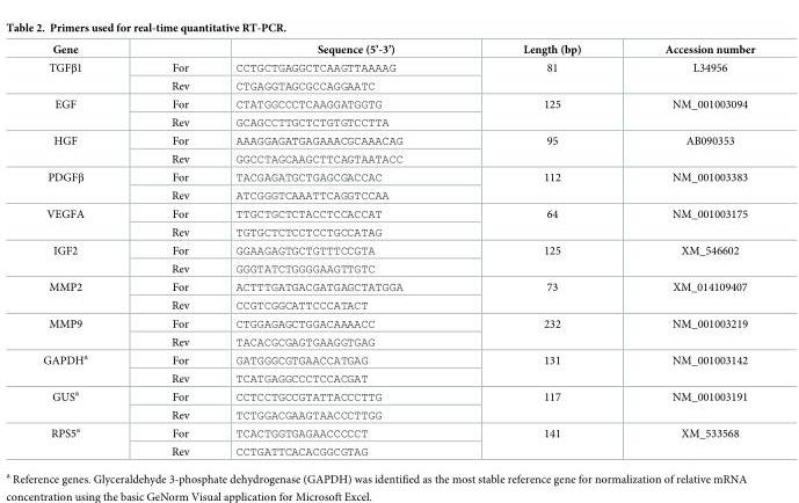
<table><thead><tr><td>Gene</td><td></td><td>Sequence (5’-3’)</td><td>Length (bp)</td><td>Accession number</td></tr></thead><tbody><tr><td rowspan="2">TGFβ1</td><td>For</td><td>CCTGCTGAGGCTCAAGTTAAAAG</td><td rowspan="2">81</td><td rowspan="2">L34956</td></tr><tr><td>Rev</td><td>CTGAGGTAGCGCCAGGAATC</td></tr><tr><td rowspan="2">EGF</td><td>For</td><td>CTATGGCCCTCAAGGATGGTG</td><td rowspan="2">125</td><td rowspan="2">NM_001003094</td></tr><tr><td>Rev</td><td>GCAGCCTTGCTCTGTGTCCTTA</td></tr><tr><td rowspan="2">HGF</td><td>For</td><td>AAAGGAGATGAGAAACGCAAACAG</td><td rowspan="2">95</td><td rowspan="2">AB090353</td></tr><tr><td>Rev</td><td>GGCCTAGCAAGCTTCAGTAATACC</td></tr><tr><td rowspan="2">PDGFβ</td><td>For</td><td>TACGAGATGCTGAGCGACCAC</td><td rowspan="2">112</td><td rowspan="2">NM_001003383</td></tr><tr><td>Rev</td><td>ATCGGGTCAAATTCAGGTCCAA</td></tr><tr><td rowspan="2">VEGFA</td><td>For</td><td>TTGCTGCTCTACCTCCACCAT</td><td rowspan="2">64</td><td rowspan="2">NM_001003175</td></tr><tr><td>Rev</td><td>TGTGCTCTCCTCCTGCCATAG</td></tr><tr><td rowspan="2">IGF2</td><td>For</td><td>GGAAGAGTGCTGTTTCCGTA</td><td rowspan="2">125</td><td rowspan="2">XM_546602</td></tr><tr><td>Rev</td><td>GGGTATCTGGGGAAGTTGTC</td></tr><tr><td rowspan="2">MMP2</td><td>For</td><td>ACTTTGATGACGATGAGCTATGGA</td><td rowspan="2">73</td><td rowspan="2">XM_014109407</td></tr><tr><td>Rev</td><td>CCGTCGGCATTCCCATACT</td></tr><tr><td rowspan="2">MMP9</td><td>For</td><td>CTGGAGAGCTGGACAAAACC</td><td rowspan="2">232</td><td rowspan="2">NM_001003219</td></tr><tr><td>Rev</td><td>TACACGCGAGTGAAGGTGAG</td></tr><tr><td rowspan="2">GAPDH<sup>a</sup></td><td>For</td><td>GATGGGCGTGAACCATGAG</td><td rowspan="2">131</td><td rowspan="2">NM_001003142</td></tr><tr><td>Rev</td><td>TCATGAGGCCCTCCACGAT</td></tr><tr><td rowspan="2">GUS<sup>a</sup></td><td>For</td><td>CCTCCTGCCGTATTACCCTTG</td><td rowspan="2">117</td><td rowspan="2">NM_001003191</td></tr><tr><td>Rev</td><td>TCTGGACGAAGTAACCCTTGG</td></tr><tr><td rowspan="2">RPS5<sup>a</sup></td><td>For</td><td>TCACTGGTGAGAACCCCCT</td><td rowspan="2">141</td><td rowspan="2">XM_533568</td></tr><tr><td>Rev</td><td>CCTGATTCACACGGCGTAG</td></tr></tbody></table>